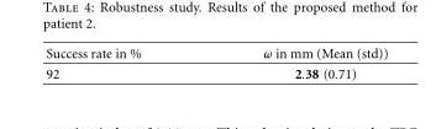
<table><thead><tr><td>Success rate in %</td><td>ω in mm (Mean (std))</td></tr></thead><tbody><tr><td>92</td><td>2.38 (0.71)</td></tr></tbody></table>